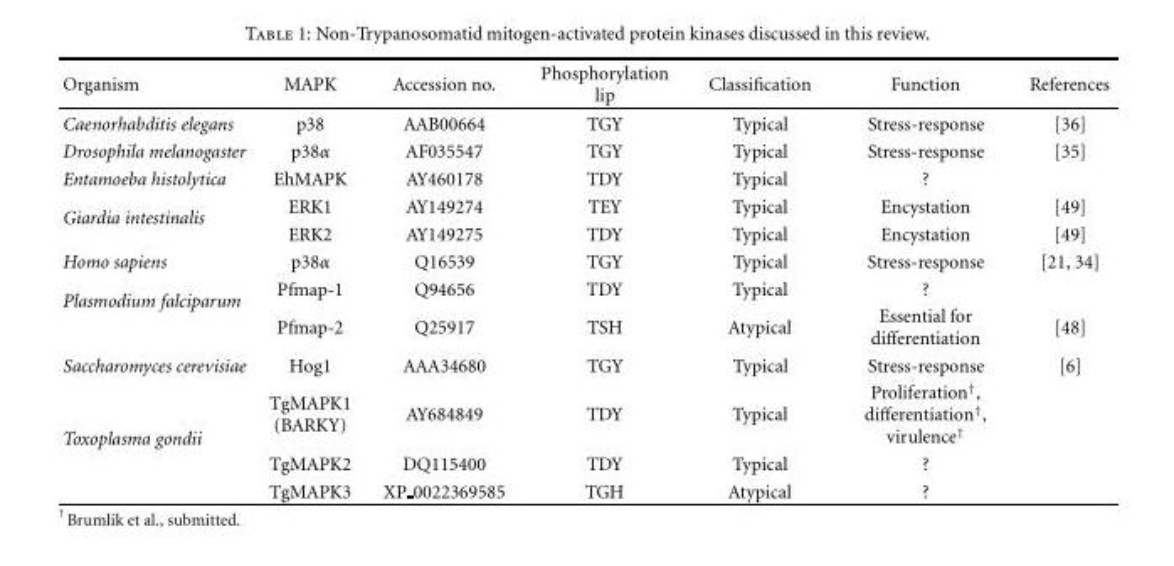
<table><thead><tr><td>Organism</td><td>MAPK</td><td>Accession no.</td><td>Phosphorylation lip</td><td>Classification</td><td>Function</td><td>References</td></tr></thead><tbody><tr><td>Caenorhabditis elegans</td><td>p38</td><td>AAB00664</td><td>TGY</td><td>Typical</td><td>Stress-response</td><td>[36]</td></tr><tr><td>Drosophila melanogaster</td><td>p38α</td><td>AF035547</td><td>TGY</td><td>Typical</td><td>Stress-response</td><td>[35]</td></tr><tr><td>Entamoeba histolytica</td><td>EhMAPK</td><td>AY460178</td><td>TDY</td><td>Typical</td><td>?</td><td></td></tr><tr><td rowspan="2">Giardia intestinalis</td><td>ERK1</td><td>AY149274</td><td>TEY</td><td>Typical</td><td>Encystation</td><td>[49]</td></tr><tr><td>ERK2</td><td>AY149275</td><td>TDY</td><td>Typical</td><td>Encystation</td><td>[49]</td></tr><tr><td>Homo sapiens</td><td>p38α</td><td>Q16539</td><td>TGY</td><td>Typical</td><td>Stress-response</td><td>[21, 34]</td></tr><tr><td rowspan="2">Plasmodium falciparum</td><td>Pfmap-1</td><td>Q94656</td><td>TDY</td><td>Typical</td><td>?</td><td></td></tr><tr><td>Pfmap-2</td><td>Q25917</td><td>TSH</td><td>Atypical</td><td>Essential for differentiation</td><td>[48]</td></tr><tr><td>Saccharomyces cerevisiae</td><td>Hog1</td><td>AAA34680</td><td>TGY</td><td>Typical</td><td>Stress-response</td><td>[6]</td></tr><tr><td rowspan="3">Toxoplasma gondii</td><td>TgMAPK1 (BARKY)</td><td>AY684849</td><td>TDY</td><td>Typical</td><td>Proliferation<sup>†</sup>, differentiation<sup>†</sup>, virulence<sup>†</sup></td><td></td></tr><tr><td>TgMAPK2</td><td>DQ115400</td><td>TDY</td><td>Typical</td><td>?</td><td></td></tr><tr><td>TgMAPK3</td><td>XP 0022369585</td><td>TGH</td><td>Atypical</td><td>?</td><td></td></tr></tbody></table>